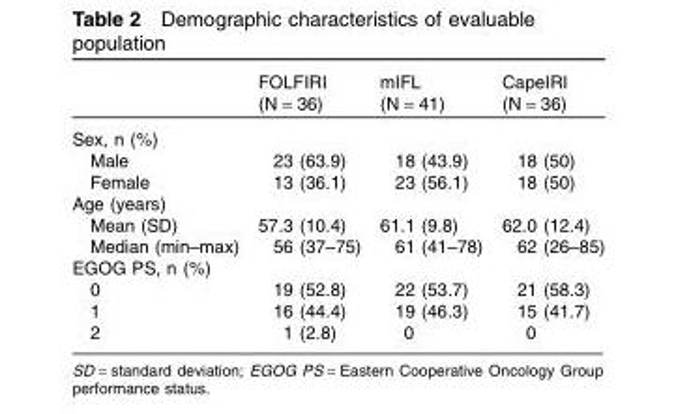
<table><thead><tr><td></td><td>FOLFIRI (N = 36)</td><td>mIFL (N = 41)</td><td>CapeIRI (N = 36)</td></tr></thead><tbody><tr><td colspan="4">Sex, n (%)</td></tr><tr><td>Male</td><td>23 (63.9)</td><td>18 (43.9)</td><td>18 (50)</td></tr><tr><td>Female</td><td>13 (36.1)</td><td>23 (56.1)</td><td>18 (50)</td></tr><tr><td colspan="4">Age (years)</td></tr><tr><td>Mean (SD)</td><td>57.3 (10.4)</td><td>61.1 (9.8)</td><td>62.0 (12.4)</td></tr><tr><td>Median (min–max)</td><td>56 (37–75)</td><td>61 (41–78)</td><td>62 (26–85)</td></tr><tr><td colspan="4">EGOG PS, n (%)</td></tr><tr><td>0</td><td>19 (52.8)</td><td>22 (53.7)</td><td>21 (58.3)</td></tr><tr><td>1</td><td>16 (44.4)</td><td>19 (46.3)</td><td>15 (41.7)</td></tr><tr><td>2</td><td>1 (2.8)</td><td>0</td><td>0</td></tr></tbody></table>